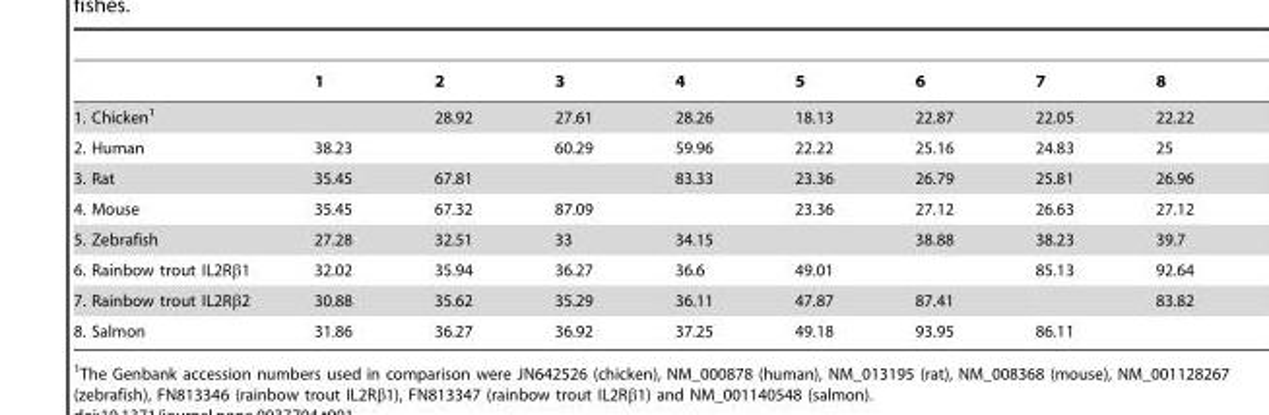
<table><thead><tr><td></td><td>1</td><td>2</td><td>3</td><td>4</td><td>5</td><td>6</td><td>7</td><td>8</td></tr></thead><tbody><tr><td>1. Chicken<sup>1</sup></td><td></td><td>28.92</td><td>27.61</td><td>28.26</td><td>18.13</td><td>22.87</td><td>22.05</td><td>22.22</td></tr><tr><td>2. Human</td><td>38.23</td><td></td><td>60.29</td><td>59.96</td><td>22.22</td><td>25.16</td><td>24.83</td><td>25</td></tr><tr><td>3. Rat</td><td>35.45</td><td>67.81</td><td></td><td>83.33</td><td>23.36</td><td>26.79</td><td>25.81</td><td>26.96</td></tr><tr><td>4. Mouse</td><td>35.45</td><td>67.32</td><td>87.09</td><td></td><td>23.36</td><td>27.12</td><td>26.63</td><td>27.12</td></tr><tr><td>5. Zebrafish</td><td>27.28</td><td>32.51</td><td>33</td><td>34.15</td><td></td><td>38.88</td><td>38.23</td><td>39.7</td></tr><tr><td>6. Rainbow trout IL2Rβ1</td><td>32.02</td><td>35.94</td><td>36.27</td><td>36.6</td><td>49.01</td><td></td><td>85.13</td><td>92.64</td></tr><tr><td>7. Rainbow trout IL2Rβ2</td><td>30.88</td><td>35.62</td><td>35.29</td><td>36.11</td><td>47.87</td><td>87.41</td><td></td><td>83.82</td></tr><tr><td>8. Salmon</td><td>31.86</td><td>36.27</td><td>36.92</td><td>37.25</td><td>49.18</td><td>93.95</td><td>86.11</td><td></td></tr></tbody></table>